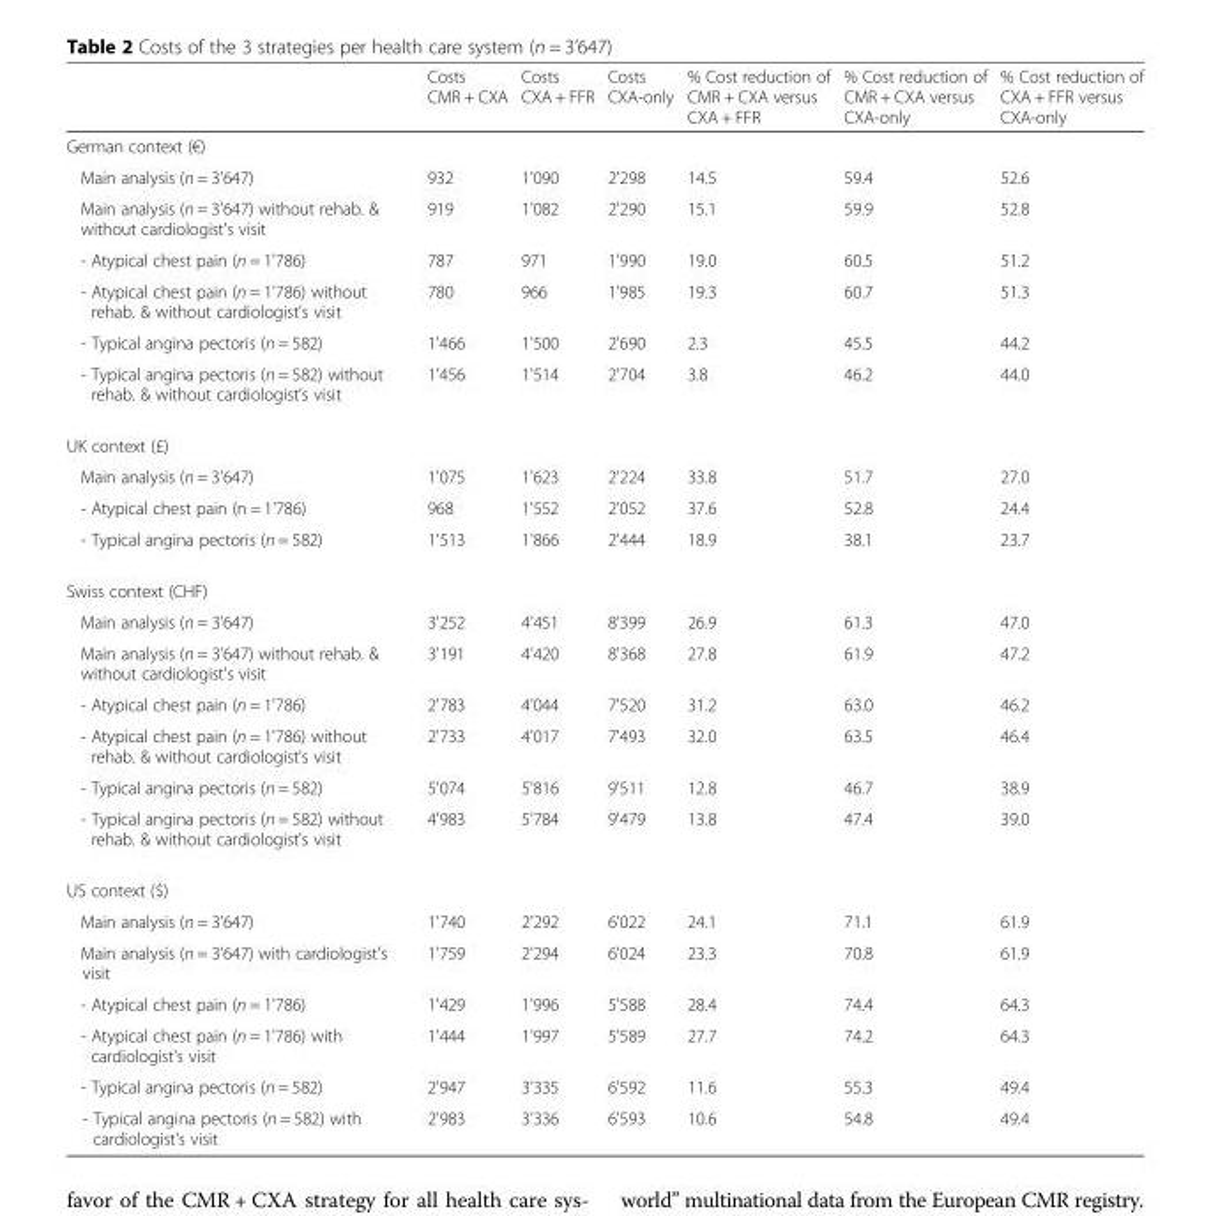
<table><thead><tr><td></td><td>Costs CMR + CXA</td><td>Costs CXA + FFR</td><td>Costs CXA-only</td><td>% Cost reduction of CMR + CXA versus CXA + FFR</td><td>% Cost reduction of CMR + CXA versus CXA-only</td><td>% Cost reduction of CXA + FFR versus CXA-only</td></tr></thead><tbody><tr><td colspan="7">German context (€)</td></tr><tr><td>Main analysis (n = 3&#x27;647)</td><td>932</td><td>1&#x27;090</td><td>2&#x27;298</td><td>14.5</td><td>59.4</td><td>52.6</td></tr><tr><td>Main analysis (n = 3&#x27;647) without rehab. &amp; without cardiologist&#x27;s visit</td><td>919</td><td>1&#x27;082</td><td>2&#x27;290</td><td>15.1</td><td>59.9</td><td>52.8</td></tr><tr><td>- Atypical chest pain (n = 1&#x27;786)</td><td>787</td><td>971</td><td>1&#x27;990</td><td>19.0</td><td>60.5</td><td>51.2</td></tr><tr><td>- Atypical chest pain (n = 1&#x27;786) without rehab. &amp; without cardiologist&#x27;s visit</td><td>780</td><td>966</td><td>1&#x27;985</td><td>19.3</td><td>60.7</td><td>51.3</td></tr><tr><td>- Typical angina pectoris (n = 582)</td><td>1&#x27;466</td><td>1&#x27;500</td><td>2&#x27;690</td><td>2.3</td><td>45.5</td><td>44.2</td></tr><tr><td>- Typical angina pectoris (n = 582) without rehab. &amp; without cardiologist&#x27;s visit</td><td>1&#x27;456</td><td>1&#x27;514</td><td>2&#x27;704</td><td>3.8</td><td>46.2</td><td>44.0</td></tr><tr><td colspan="7">UK context (£)</td></tr><tr><td>Main analysis (n = 3&#x27;647)</td><td>1&#x27;075</td><td>1&#x27;623</td><td>2&#x27;224</td><td>33.8</td><td>51.7</td><td>27.0</td></tr><tr><td>- Atypical chest pain (n = 1&#x27;786)</td><td>968</td><td>1&#x27;552</td><td>2&#x27;052</td><td>37.6</td><td>52.8</td><td>24.4</td></tr><tr><td>- Typical angina pectoris (n = 582)</td><td>1&#x27;513</td><td>1&#x27;866</td><td>2&#x27;444</td><td>18.9</td><td>38.1</td><td>23.7</td></tr><tr><td colspan="7">Swiss context (CHF)</td></tr><tr><td>Main analysis (n = 3&#x27;647)</td><td>3&#x27;252</td><td>4&#x27;451</td><td>8&#x27;399</td><td>26.9</td><td>61.3</td><td>47.0</td></tr><tr><td>Main analysis (n = 3&#x27;647) without rehab. &amp; without cardiologist&#x27;s visit</td><td>3&#x27;191</td><td>4&#x27;420</td><td>8&#x27;368</td><td>27.8</td><td>61.9</td><td>47.2</td></tr><tr><td>- Atypical chest pain (n = 1&#x27;786)</td><td>2&#x27;783</td><td>4&#x27;044</td><td>7&#x27;520</td><td>31.2</td><td>63.0</td><td>46.2</td></tr><tr><td>- Atypical chest pain (n = 1&#x27;786) without rehab. &amp; without cardiologist&#x27;s visit</td><td>2&#x27;733</td><td>4&#x27;017</td><td>7&#x27;493</td><td>32.0</td><td>63.5</td><td>46.4</td></tr><tr><td>- Typical angina pectoris (n = 582)</td><td>5&#x27;074</td><td>5&#x27;816</td><td>9&#x27;511</td><td>12.8</td><td>46.7</td><td>38.9</td></tr><tr><td>- Typical angina pectoris (n = 582) without rehab. &amp; without cardiologist&#x27;s visit</td><td>4&#x27;983</td><td>5&#x27;784</td><td>9&#x27;479</td><td>13.8</td><td>47.4</td><td>39.0</td></tr><tr><td colspan="7">US context ($)</td></tr><tr><td>Main analysis (n = 3&#x27;647)</td><td>1&#x27;740</td><td>2&#x27;292</td><td>6&#x27;022</td><td>24.1</td><td>71.1</td><td>61.9</td></tr><tr><td>Main analysis (n = 3&#x27;647) with cardiologist&#x27;s visit</td><td>1&#x27;759</td><td>2&#x27;294</td><td>6&#x27;024</td><td>23.3</td><td>70.8</td><td>61.9</td></tr><tr><td>- Atypical chest pain (n = 1&#x27;786)</td><td>1&#x27;429</td><td>1&#x27;996</td><td>5&#x27;588</td><td>28.4</td><td>74.4</td><td>64.3</td></tr><tr><td>- Atypical chest pain (n = 1&#x27;786) with cardiologist&#x27;s visit</td><td>1&#x27;444</td><td>1&#x27;997</td><td>5&#x27;589</td><td>27.7</td><td>74.2</td><td>64.3</td></tr><tr><td>- Typical angina pectoris (n = 582)</td><td>2&#x27;947</td><td>3&#x27;335</td><td>6&#x27;592</td><td>11.6</td><td>55.3</td><td>49.4</td></tr><tr><td>- Typical angina pectoris (n = 582) with cardiologist&#x27;s visit</td><td>2&#x27;983</td><td>3&#x27;336</td><td>6&#x27;593</td><td>10.6</td><td>54.8</td><td>49.4</td></tr></tbody></table>